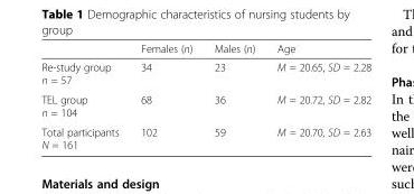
<table><thead><tr><td></td><td>Females (n)</td><td>Males (n)</td><td>Age</td></tr></thead><tbody><tr><td>Re-study group n = 57</td><td>34</td><td>23</td><td>M = 20.65, SD = 2.28</td></tr><tr><td>TEL group n = 104</td><td>68</td><td>36</td><td>M = 20.72, SD = 2.82</td></tr><tr><td>Total participants N = 161</td><td>102</td><td>59</td><td>M = 20.70, SD = 2.63</td></tr></tbody></table>